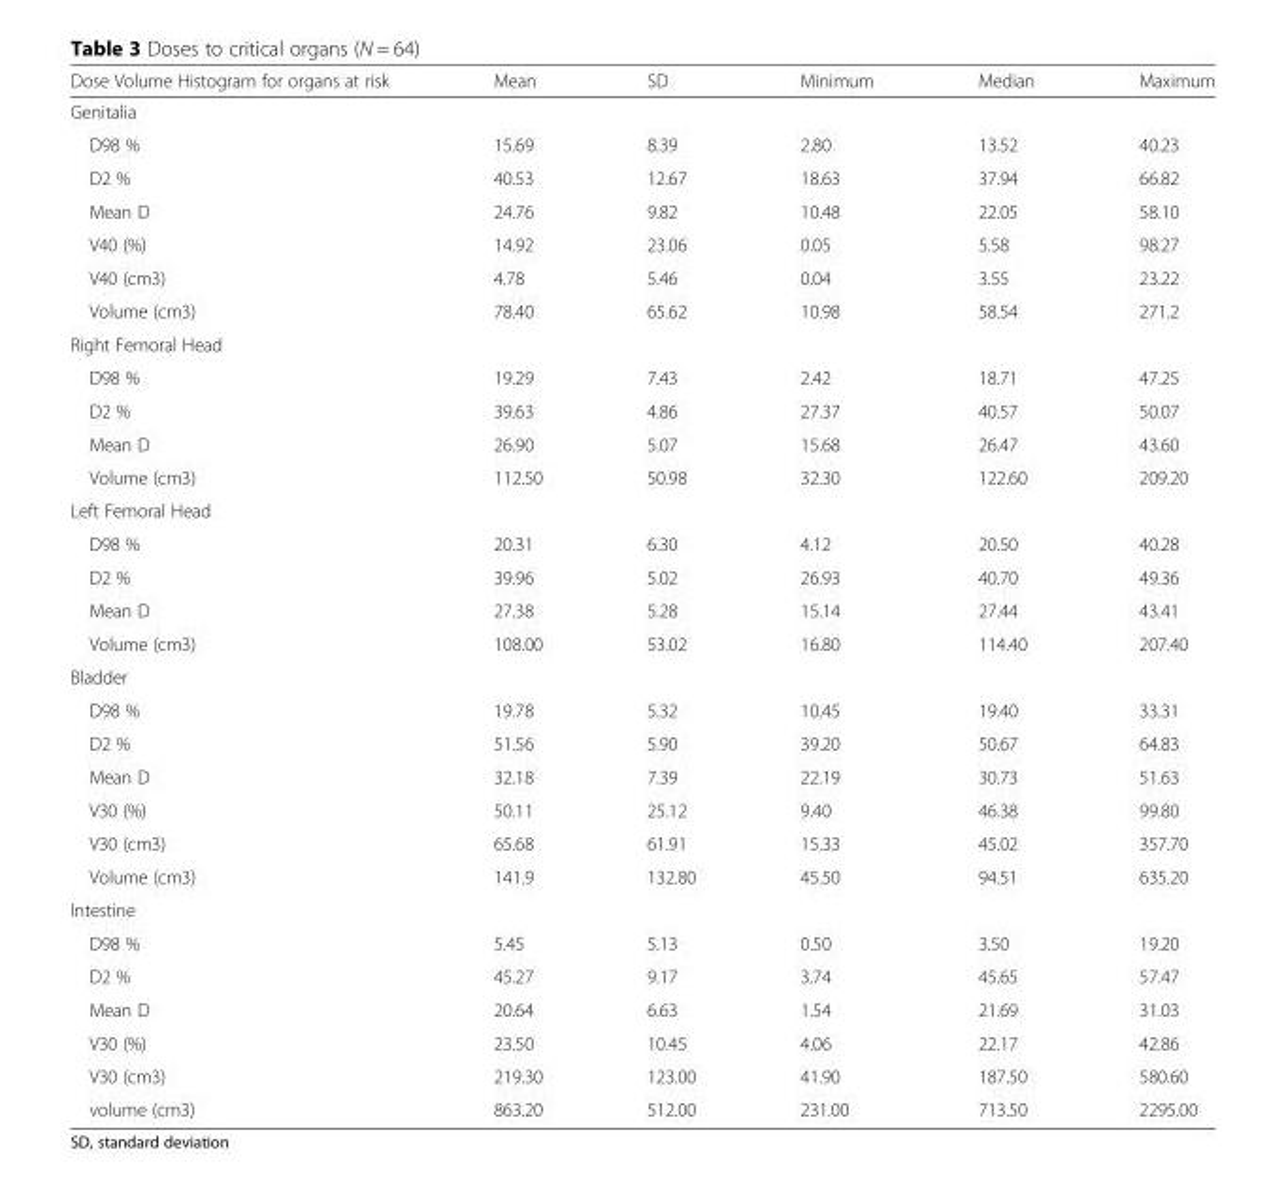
<table><thead><tr><td>Dose Volume Histogram for organs at risk</td><td>Mean</td><td>SD</td><td>Minimum</td><td>Median</td><td>Maximum</td></tr></thead><tbody><tr><td colspan="6">Genitalia</td></tr><tr><td>D98 %</td><td>15.69</td><td>8.39</td><td>2.80</td><td>13.52</td><td>40.23</td></tr><tr><td>D2 %</td><td>40.53</td><td>12.67</td><td>18.63</td><td>37.94</td><td>66.82</td></tr><tr><td>Mean D</td><td>24.76</td><td>9.82</td><td>10.48</td><td>22.05</td><td>58.10</td></tr><tr><td>V40 (%)</td><td>14.92</td><td>23.06</td><td>0.05</td><td>5.58</td><td>98.27</td></tr><tr><td>V40 (cm3)</td><td>4.78</td><td>5.46</td><td>0.04</td><td>3.55</td><td>23.22</td></tr><tr><td>Volume (cm3)</td><td>78.40</td><td>65.62</td><td>10.98</td><td>58.54</td><td>271.2</td></tr><tr><td colspan="6">Right Femoral Head</td></tr><tr><td>D98 %</td><td>19.29</td><td>7.43</td><td>2.42</td><td>18.71</td><td>47.25</td></tr><tr><td>D2 %</td><td>39.63</td><td>4.86</td><td>27.37</td><td>40.57</td><td>50.07</td></tr><tr><td>Mean D</td><td>26.90</td><td>5.07</td><td>15.68</td><td>26.47</td><td>43.60</td></tr><tr><td>Volume (cm3)</td><td>112.50</td><td>50.98</td><td>32.30</td><td>122.60</td><td>209.20</td></tr><tr><td colspan="6">Left Femoral Head</td></tr><tr><td>D98 %</td><td>20.31</td><td>6.30</td><td>4.12</td><td>20.50</td><td>40.28</td></tr><tr><td>D2 %</td><td>39.96</td><td>5.02</td><td>26.93</td><td>40.70</td><td>49.36</td></tr><tr><td>Mean D</td><td>27.38</td><td>5.28</td><td>15.14</td><td>27.44</td><td>43.41</td></tr><tr><td>Volume (cm3)</td><td>108.00</td><td>53.02</td><td>16.80</td><td>114.40</td><td>207.40</td></tr><tr><td colspan="6">Bladder</td></tr><tr><td>D98 %</td><td>19.78</td><td>5.32</td><td>10.45</td><td>19.40</td><td>33.31</td></tr><tr><td>D2 %</td><td>51.56</td><td>5.90</td><td>39.20</td><td>50.67</td><td>64.83</td></tr><tr><td>Mean D</td><td>32.18</td><td>7.39</td><td>22.19</td><td>30.73</td><td>51.63</td></tr><tr><td>V30 (%)</td><td>50.11</td><td>25.12</td><td>9.40</td><td>46.38</td><td>99.80</td></tr><tr><td>V30 (cm3)</td><td>65.68</td><td>61.91</td><td>15.33</td><td>45.02</td><td>357.70</td></tr><tr><td>Volume (cm3)</td><td>141.9</td><td>132.80</td><td>45.50</td><td>94.51</td><td>635.20</td></tr><tr><td colspan="6">Intestine</td></tr><tr><td>D98 %</td><td>5.45</td><td>5.13</td><td>0.50</td><td>3.50</td><td>19.20</td></tr><tr><td>D2 %</td><td>45.27</td><td>9.17</td><td>3.74</td><td>45.65</td><td>57.47</td></tr><tr><td>Mean D</td><td>20.64</td><td>6.63</td><td>1.54</td><td>21.69</td><td>31.03</td></tr><tr><td>V30 (%)</td><td>23.50</td><td>10.45</td><td>4.06</td><td>22.17</td><td>42.86</td></tr><tr><td>V30 (cm3)</td><td>219.30</td><td>123.00</td><td>41.90</td><td>187.50</td><td>580.60</td></tr><tr><td>volume (cm3)</td><td>863.20</td><td>512.00</td><td>231.00</td><td>713.50</td><td>2295.00</td></tr></tbody></table>